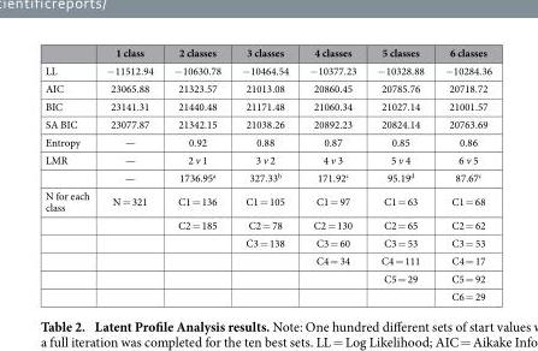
<table><thead><tr><td></td><td>1 class</td><td>2 classes</td><td>3 classes</td><td>4 classes</td><td>5 classes</td><td>6 classes</td></tr></thead><tbody><tr><td>LL</td><td>− 11512.94</td><td>− 10630.78</td><td>− 10464.54</td><td>− 10377.23</td><td>− 10328.88</td><td>− 10284.36</td></tr><tr><td>AIC</td><td>23065.88</td><td>21323.57</td><td>21013.08</td><td>20860.45</td><td>20785.76</td><td>20718.72</td></tr><tr><td>BIC</td><td>23141.31</td><td>21440.48</td><td>21171.48</td><td>21060.34</td><td>21027.14</td><td>21001.57</td></tr><tr><td>SA BIC</td><td>23077.87</td><td>21342.15</td><td>21038.26</td><td>20892.23</td><td>20824.14</td><td>20763.69</td></tr><tr><td>Entropy</td><td>—</td><td>0.92</td><td>0.88</td><td>0.87</td><td>0.85</td><td>0.86</td></tr><tr><td rowspan="2">LMR</td><td>—</td><td>2 v 1</td><td>3 v 2</td><td>4 v 3</td><td>5 v 4</td><td>6 v 5</td></tr><tr><td>—</td><td>1736.95<sup>a</sup></td><td>327.33<sup>b</sup></td><td>171.92<sup>c</sup></td><td>95.19<sup>d</sup></td><td>87.67<sup>c</sup></td></tr><tr><td rowspan="6">N for each class</td><td>N = 321</td><td>C1 = 136</td><td>C1 = 105</td><td>C1 = 97</td><td>C1 = 63</td><td>C1 = 68</td></tr><tr><td></td><td>C2 = 185</td><td>C2 = 78</td><td>C2 = 130</td><td>C2 = 65</td><td>C2 = 62</td></tr><tr><td></td><td></td><td>C3 = 138</td><td>C3 = 60</td><td>C3 = 53</td><td>C3 = 53</td></tr><tr><td></td><td></td><td></td><td>C4 = 34</td><td>C4 = 111</td><td>C4 = 17</td></tr><tr><td></td><td></td><td></td><td></td><td>C5 = 29</td><td>C5 = 92</td></tr><tr><td></td><td></td><td></td><td></td><td></td><td>C6 = 29</td></tr></tbody></table>